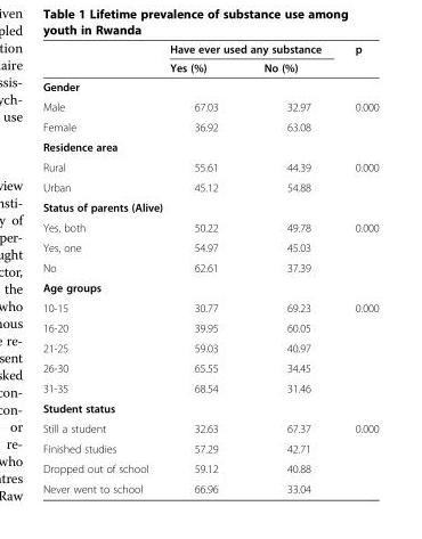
<table><thead><tr><td rowspan="2"></td><td colspan="2">Have ever used any substance</td><td rowspan="2">p</td></tr><tr><td>Yes (%)</td><td>No (%)</td></tr></thead><tbody><tr><td colspan="4">Gender</td></tr><tr><td>Male</td><td>67.03</td><td>32.97</td><td rowspan="2">0.000</td></tr><tr><td>Female</td><td>36.92</td><td>63.08</td></tr><tr><td colspan="4">Residence area</td></tr><tr><td>Rural</td><td>55.61</td><td>44.39</td><td rowspan="2">0.000</td></tr><tr><td>Urban</td><td>45.12</td><td>54.88</td></tr><tr><td colspan="4">Status of parents (Alive)</td></tr><tr><td>Yes, both</td><td>50.22</td><td>49.78</td><td rowspan="3">0.000</td></tr><tr><td>Yes, one</td><td>54.97</td><td>45.03</td></tr><tr><td>No</td><td>62.61</td><td>37.39</td></tr><tr><td colspan="4">Age groups</td></tr><tr><td>10-15</td><td>30.77</td><td>69.23</td><td rowspan="5">0.000</td></tr><tr><td>16-20</td><td>39.95</td><td>60.05</td></tr><tr><td>21-25</td><td>59.03</td><td>40.97</td></tr><tr><td>26-30</td><td>65.55</td><td>34.45</td></tr><tr><td>31-35</td><td>68.54</td><td>31.46</td></tr><tr><td colspan="4">Student status</td></tr><tr><td>Still a student</td><td>32.63</td><td>67.37</td><td rowspan="4">0.000</td></tr><tr><td>Finished studies</td><td>57.29</td><td>42.71</td></tr><tr><td>Dropped out of school</td><td>59.12</td><td>40.88</td></tr><tr><td>Never went to school</td><td>66.96</td><td>33.04</td></tr></tbody></table>